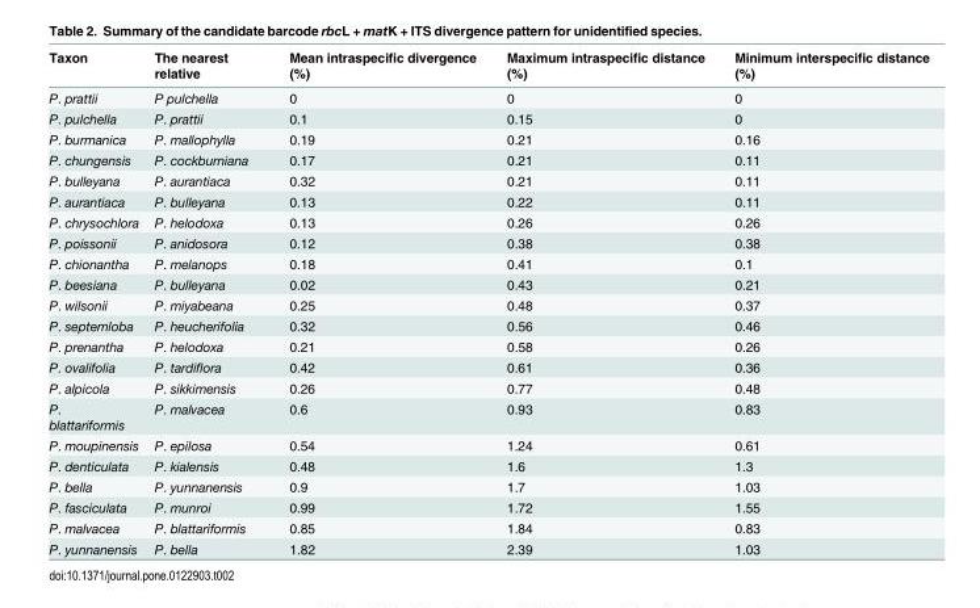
<table><thead><tr><td>Taxon</td><td>The nearest relative</td><td>Mean intraspecific divergence (%)</td><td>Maximum intraspecific distance (%)</td><td>Minimum interspecific distance (%)</td></tr></thead><tbody><tr><td>P. prattii</td><td>P pulchella</td><td>0</td><td>0</td><td>0</td></tr><tr><td>P. pulchella</td><td>P. prattii</td><td>0.1</td><td>0.15</td><td>0</td></tr><tr><td>P. burmanica</td><td>P. mallophylla</td><td>0.19</td><td>0.21</td><td>0.16</td></tr><tr><td>P. chungensis</td><td>P. cockburniana</td><td>0.17</td><td>0.21</td><td>0.11</td></tr><tr><td>P. bulleyana</td><td>P. aurantiaca</td><td>0.32</td><td>0.21</td><td>0.11</td></tr><tr><td>P. aurantiaca</td><td>P. bulleyana</td><td>0.13</td><td>0.22</td><td>0.11</td></tr><tr><td>P. chrysochlora</td><td>P. helodoxa</td><td>0.13</td><td>0.26</td><td>0.26</td></tr><tr><td>P. poissonii</td><td>P. anidosora</td><td>0.12</td><td>0.38</td><td>0.38</td></tr><tr><td>P. chionantha</td><td>P. melanops</td><td>0.18</td><td>0.41</td><td>0.1</td></tr><tr><td>P. beesiana</td><td>P. bulleyana</td><td>0.02</td><td>0.43</td><td>0.21</td></tr><tr><td>P. wilsonii</td><td>P. miyabeana</td><td>0.25</td><td>0.48</td><td>0.37</td></tr><tr><td>P. septemloba</td><td>P. heucherifolia</td><td>0.32</td><td>0.56</td><td>0.46</td></tr><tr><td>P. prenantha</td><td>P. helodoxa</td><td>0.21</td><td>0.58</td><td>0.26</td></tr><tr><td>P. ovalifolia</td><td>P. tardiflora</td><td>0.42</td><td>0.61</td><td>0.36</td></tr><tr><td>P. alpicola</td><td>P. sikkimensis</td><td>0.26</td><td>0.77</td><td>0.48</td></tr><tr><td>P. blattariformis</td><td>P. malvacea</td><td>0.6</td><td>0.93</td><td>0.83</td></tr><tr><td>P. moupinensis</td><td>P. epilosa</td><td>0.54</td><td>1.24</td><td>0.61</td></tr><tr><td>P. denticulata</td><td>P. kialensis</td><td>0.48</td><td>1.6</td><td>1.3</td></tr><tr><td>P. bella</td><td>P. yunnanensis</td><td>0.9</td><td>1.7</td><td>1.03</td></tr><tr><td>P. fasciculata</td><td>P. munroi</td><td>0.99</td><td>1.72</td><td>1.55</td></tr><tr><td>P. malvacea</td><td>P. blattariformis</td><td>0.85</td><td>1.84</td><td>0.83</td></tr><tr><td>P. yunnanensis</td><td>P. bella</td><td>1.82</td><td>2.39</td><td>1.03</td></tr></tbody></table>